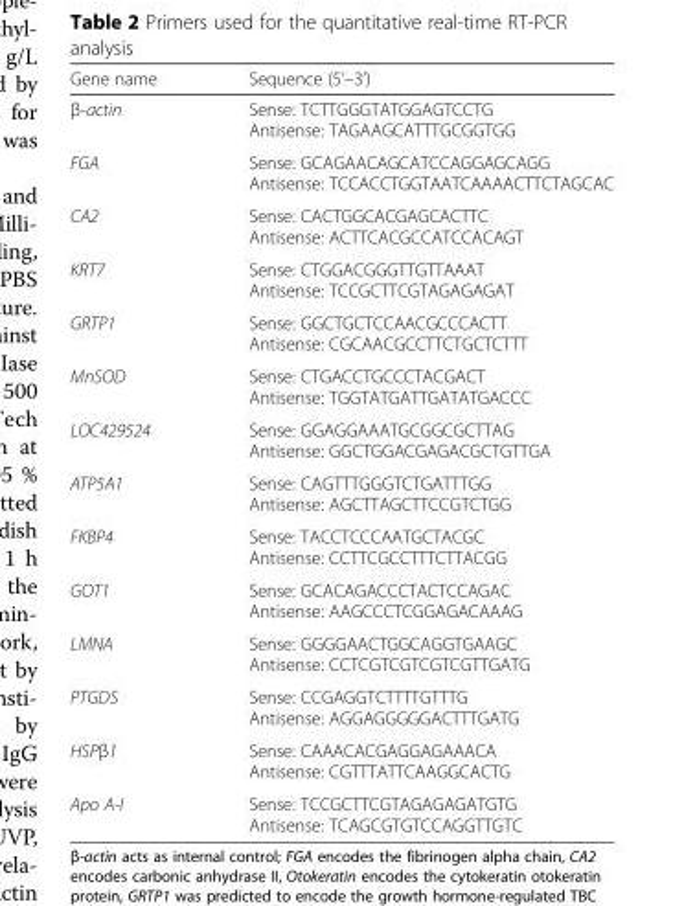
<table><thead><tr><td>Gene name</td><td>Sequence (5’–3’)</td></tr></thead><tbody><tr><td>β-actin</td><td>Sense: TCTTGGGTATGGAGTCCTG Antisense: TAGAAGCATTTGCGGTGG</td></tr><tr><td>FGA</td><td>Sense: GCAGAACAGCATCCAGGAGCAGG Antisense: TCCACCTGGTAATCAAAACTTCTAGCAC</td></tr><tr><td>CA2</td><td>Sense: CACTGGCACGAGCACTTC Antisense: ACTTCACGCCATCCACAGT</td></tr><tr><td>KRT7</td><td>Sense: CTGGACGGGTTGTTAAAT Antisense: TCCGCTTCGTAGAGAGAT</td></tr><tr><td>GRTP1</td><td>Sense: GGCTGCTCCAACGCCCACTT Antisense: CGCAACGCCTTCTGCTCTTT</td></tr><tr><td>MnSOD</td><td>Sense: CTGACCTGCCCTACGACT Antisense: TGGTATGATTGATATGACCC</td></tr><tr><td>LOC429524</td><td>Sense: GGAGGAAATGCGGCGCTTAG Antisense: GGCTGGACGAGACGCTGTTGA</td></tr><tr><td>ATP5A1</td><td>Sense: CAGTTTGGGTCTGATTTGG Antisense: AGCTTAGCTTCCGTCTGG</td></tr><tr><td>FKBP4</td><td>Sense: TACCTCCCAATGCTACGC Antisense: CCTTCGCCTTTCTTACGG</td></tr><tr><td>GOT1</td><td>Sense: GCACAGACCCTACTCCAGAC Antisense: AAGCCCTCGGAGACAAAG</td></tr><tr><td>LMNA</td><td>Sense: GGGGAACTGGCAGGTGAAGC Antisense: CCTCGTCGTCGTCGTTGATG</td></tr><tr><td>PTGDS</td><td>Sense: CCGAGGTCTTTTGTTTG Antisense: AGGAGGGGGACTTTGATG</td></tr><tr><td>HSPβ1</td><td>Sense: CAAACACGAGGAGAAACA Antisense: CGTTTATTCAAGGCACTG</td></tr><tr><td>Apo A-I</td><td>Sense: TCCGCTTCGTAGAGAGATGTG Antisense: TCAGCGTGTCCAGGTTGTC</td></tr></tbody></table>